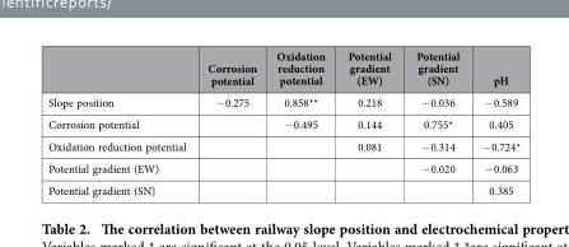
<table><thead><tr><td></td><td>Corrosion potential</td><td>Oxidation reduction potential</td><td>Potential gradient (EW)</td><td>Potential gradient (SN)</td><td>pH</td></tr></thead><tbody><tr><td>Slope position</td><td>− 0.275</td><td>0.858**</td><td>0.218</td><td>− 0.036</td><td>− 0.589</td></tr><tr><td>Corrosion potential</td><td></td><td>− 0.495</td><td>0.144</td><td>0.755*</td><td>0.405</td></tr><tr><td>Oxidation reduction potential</td><td></td><td></td><td>0.081</td><td>− 0.314</td><td>− 0.724*</td></tr><tr><td>Potential gradient (EW)</td><td></td><td></td><td></td><td>− 0.020</td><td>− 0.063</td></tr><tr><td>Potential gradient (SN)</td><td></td><td></td><td></td><td></td><td>0.385</td></tr></tbody></table>